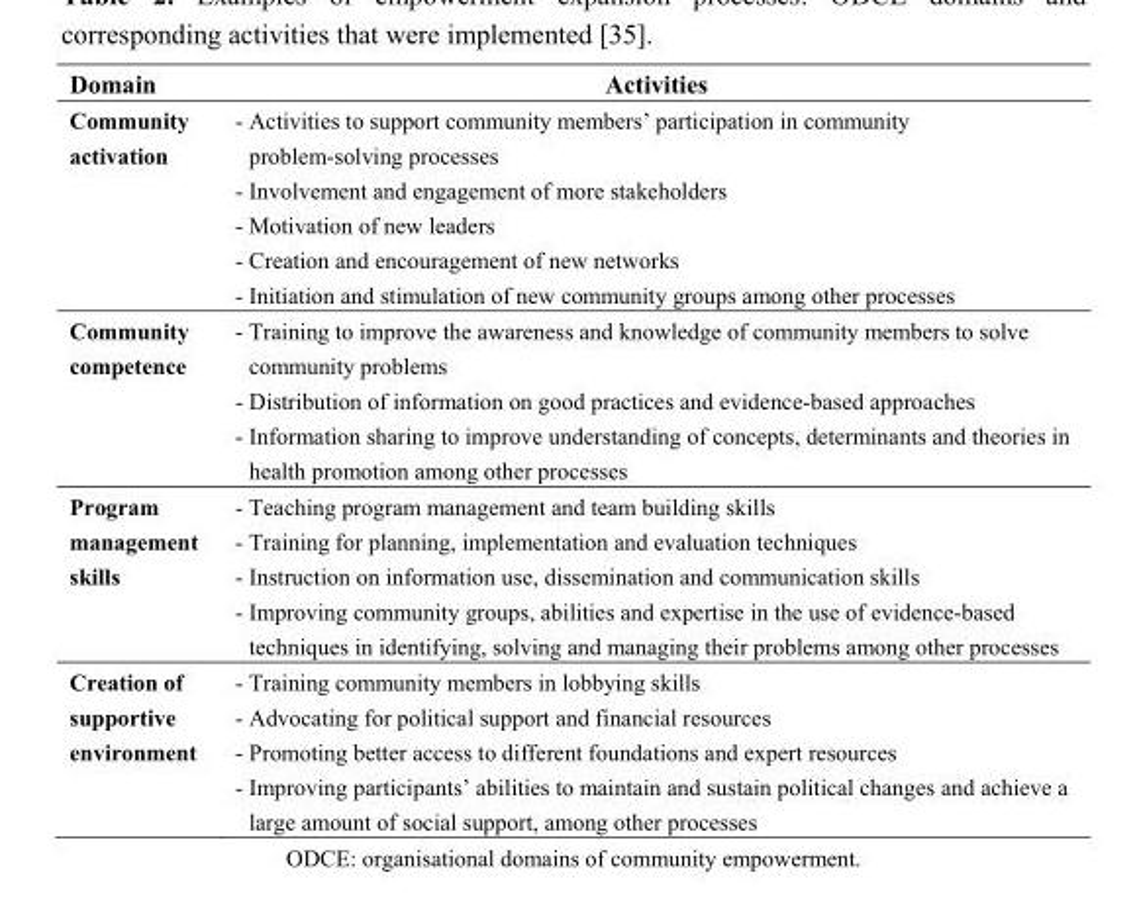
<table><thead><tr><td>Domain</td><td>Activities</td></tr></thead><tbody><tr><td>Community activation</td><td>- Activities to support community members’ participation in community problem-solving processes - Involvement and engagement of more stakeholders - Motivation of new leaders - Creation and encouragement of new networks - Initiation and stimulation of new community groups among other processes</td></tr><tr><td>Community competence</td><td>- Training to improve the awareness and knowledge of community members to solve community problems - Distribution of information on good practices and evidence-based approaches - Information sharing to improve understanding of concepts, determinants and theories in health promotion among other processes</td></tr><tr><td>Program management skills</td><td>- Teaching program management and team building skills - Training for planning, implementation and evaluation techniques - Instruction on information use, dissemination and communication skills - Improving community groups, abilities and expertise in the use of evidence-based techniques in identifying, solving and managing their problems among other processes</td></tr><tr><td>Creation of supportive environment</td><td>- Training community members in lobbying skills - Advocating for political support and financial resources - Promoting better access to different foundations and expert resources - Improving participants’ abilities to maintain and sustain political changes and achieve a large amount of social support, among other processes</td></tr></tbody></table>